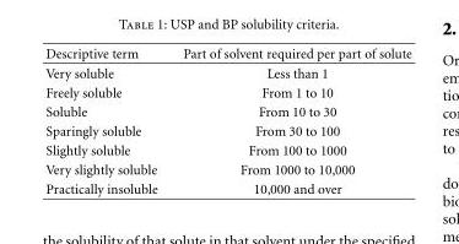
<table><thead><tr><td>Descriptive term</td><td>Part of solvent required per part of solute</td></tr></thead><tbody><tr><td>Very soluble</td><td>Less than 1</td></tr><tr><td>Freely soluble</td><td>From 1 to 10</td></tr><tr><td>Soluble</td><td>From 10 to 30</td></tr><tr><td>Sparingly soluble</td><td>From 30 to 100</td></tr><tr><td>Slightly soluble</td><td>From 100 to 1000</td></tr><tr><td>Very slightly soluble</td><td>From 1000 to 10,000</td></tr><tr><td>Practically insoluble</td><td>10,000 and over</td></tr></tbody></table>